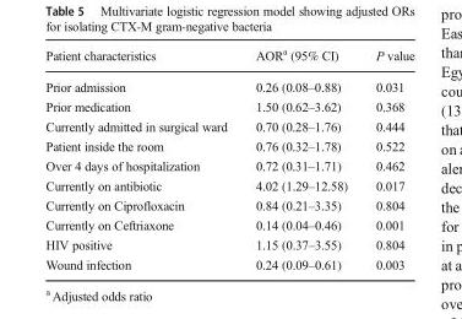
<table><thead><tr><td>Patient characteristics</td><td>AOR<sup>a</sup> (95% CI)</td><td>P value</td></tr></thead><tbody><tr><td>Prior admission</td><td>0.26 (0.08–0.88)</td><td>0.031</td></tr><tr><td>Prior medication</td><td>1.50 (0.62–3.62)</td><td>0.368</td></tr><tr><td>Currently admitted in surgical ward</td><td>0.70 (0.28–1.76)</td><td>0.444</td></tr><tr><td>Patient inside the room</td><td>0.76 (0.32–1.78)</td><td>0.522</td></tr><tr><td>Over 4 days of hospitalization</td><td>0.72 (0.31–1.71)</td><td>0.462</td></tr><tr><td>Currently on antibiotic</td><td>4.02 (1.29–12.58)</td><td>0.017</td></tr><tr><td>Currently on Ciprofloxacin</td><td>0.84 (0.21–3.35)</td><td>0.804</td></tr><tr><td>Currently on Ceftriaxone</td><td>0.14 (0.04–0.46)</td><td>0.001</td></tr><tr><td>HIV positive</td><td>1.15 (0.37–3.55)</td><td>0.804</td></tr><tr><td>Wound infection</td><td>0.24 (0.09–0.61)</td><td>0.003</td></tr></tbody></table>